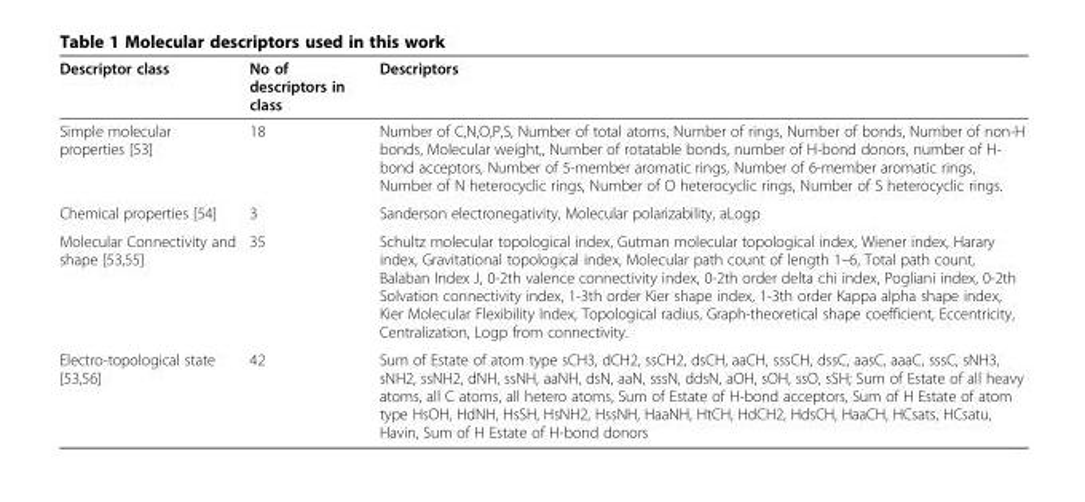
<table><thead><tr><td>Descriptor class</td><td>No of descriptors in class</td><td>Descriptors</td></tr></thead><tbody><tr><td>Simple molecular properties [53]</td><td>18</td><td>Number of C,N,O,P,S, Number of total atoms, Number of rings, Number of bonds, Number of non-H bonds, Molecular weight,, Number of rotatable bonds, number of H-bond donors, number of H- bond acceptors, Number of 5-member aromatic rings, Number of 6-member aromatic rings, Number of N heterocyclic rings, Number of O heterocyclic rings, Number of S heterocyclic rings.</td></tr><tr><td>Chemical properties [54]</td><td>3</td><td>Sanderson electronegativity, Molecular polarizability, aLogp</td></tr><tr><td>Molecular Connectivity and shape [53,55]</td><td>35</td><td>Schultz molecular topological index, Gutman molecular topological index, Wiener index, Harary index, Gravitational topological index, Molecular path count of length 1–6, Total path count, Balaban Index J, 0-2th valence connectivity index, 0-2th order delta chi index, Pogliani index, 0-2th Solvation connectivity index, 1-3th order Kier shape index, 1-3th order Kappa alpha shape index, Kier Molecular Flexibility Index, Topological radius, Graph-theoretical shape coefficient, Eccentricity, Centralization, Logp from connectivity.</td></tr><tr><td>Electro-topological state [53,56]</td><td>42</td><td>Sum of Estate of atom type sCH3, dCH2, ssCH2, dsCH, aaCH, sssCH, dssC, aasC, aaaC, sssC, sNH3, sNH2, ssNH2, dNH, ssNH, aaNH, dsN, aaN, sssN, ddsN, aOH, sOH, ssO, sSH; Sum of Estate of all heavy atoms, all C atoms, all hetero atoms, Sum of Estate of H-bond acceptors, Sum of H Estate of atom type HsOH, HdNH, HsSH, HsNH2, HssNH, HaaNH, HtCH, HdCH2, HdsCH, HaaCH, HCsats, HCsatu, Havin, Sum of H Estate of H-bond donors</td></tr></tbody></table>